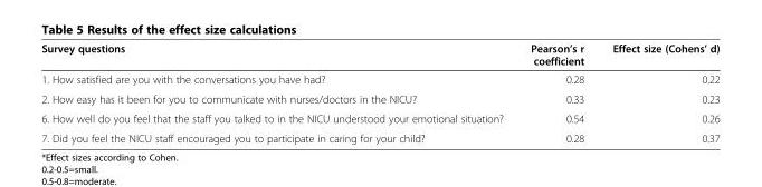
<table><thead><tr><td>Survey questions</td><td>Pearson’s r coefficient</td><td>Effect size (Cohens’ d)</td></tr></thead><tbody><tr><td>1. How satisfied are you with the conversations you have had?</td><td>0.28</td><td>0.22</td></tr><tr><td>2. How easy has it been for you to communicate with nurses/doctors in the NICU?</td><td>0.33</td><td>0.23</td></tr><tr><td>6. How well do you feel that the staff you talked to in the NICU understood your emotional situation?</td><td>0.54</td><td>0.26</td></tr><tr><td>7. Did you feel the NICU staff encouraged you to participate in caring for your child?</td><td>0.28</td><td>0.37</td></tr></tbody></table>